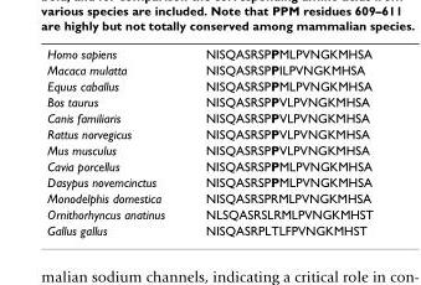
<table><tbody><tr><td>Homo sapiens</td><td>NISQASRSPPMLPVNGKMHSA</td></tr><tr><td>Macaca mulatta</td><td>NISQASRSPPILPVNGKMHSA</td></tr><tr><td>Equus caballus</td><td>NISQASRSPPMLPVNGKMHSA</td></tr><tr><td>Bos taurus</td><td>NISQASRSPPVLPVNGKMHSA</td></tr><tr><td>Canis familiaris</td><td>NISQASRSPPVLPVNGKMHSA</td></tr><tr><td>Rattus norvegicus</td><td>NISQASRSPPVLPVNGKMHSA</td></tr><tr><td>Mus musculus</td><td>NISQASRSPPVLPVNGKMHSA</td></tr><tr><td>Cavia porcellus</td><td>NISQASRSPPMLPVNGKMHSA</td></tr><tr><td>Dasypus novemcinctus</td><td>NISQASRSPPMLPVNGKMHSA</td></tr><tr><td>Monodelphis domestica</td><td>NISQASRSPRMLPVNGKMHSA</td></tr><tr><td>Ornithorhyncus anatinus</td><td>NLSQASRSLRMLPVNGKMHST</td></tr><tr><td>Gallus gallus</td><td>NISQASRPLTLFPVNGKMHST</td></tr></tbody></table>